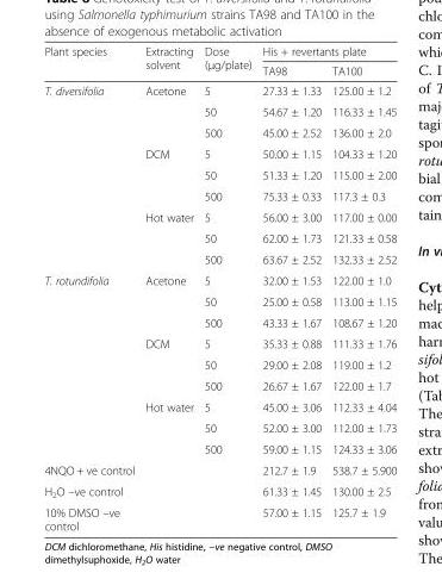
<table><thead><tr><td rowspan="2">Plant species</td><td rowspan="2">Extracting solvent</td><td rowspan="2">Dose (μg/plate)</td><td colspan="2">His + revertants plate</td></tr><tr><td>TA98</td><td>TA100</td></tr></thead><tbody><tr><td rowspan="9">T. diversifolia</td><td rowspan="3">Acetone</td><td>5</td><td>27.33 ± 1.33</td><td>125.00 ± 1.2</td></tr><tr><td>50</td><td>54.67 ± 1.20</td><td>116.33 ± 1.45</td></tr><tr><td>500</td><td>45.00 ± 2.52</td><td>136.00 ± 2.0</td></tr><tr><td rowspan="3">DCM</td><td>5</td><td>50.00 ± 1.15</td><td>104.33 ± 1.20</td></tr><tr><td>50</td><td>51.33 ± 1.20</td><td>115.00 ± 2.00</td></tr><tr><td>500</td><td>75.33 ± 0.33</td><td>117.3 ± 0.3</td></tr><tr><td rowspan="3">Hot water</td><td>5</td><td>56.00 ± 3.00</td><td>117.00 ± 0.00</td></tr><tr><td>50</td><td>62.00 ± 1.73</td><td>121.33 ± 0.58</td></tr><tr><td>500</td><td>63.67 ± 2.52</td><td>132.33 ± 2.52</td></tr><tr><td rowspan="9">T. rotundifolia</td><td rowspan="3">Acetone</td><td>5</td><td>32.00 ± 1.53</td><td>122.00 ± 1.0</td></tr><tr><td>50</td><td>25.00 ± 0.58</td><td>113.00 ± 1.15</td></tr><tr><td>500</td><td>43.33 ± 1.67</td><td>108.67 ± 1.20</td></tr><tr><td rowspan="3">DCM</td><td>5</td><td>35.33 ± 0.88</td><td>111.33 ± 1.76</td></tr><tr><td>50</td><td>29.00 ± 2.08</td><td>119.00 ± 1.2</td></tr><tr><td>500</td><td>26.67 ± 1.67</td><td>122.00 ± 1.7</td></tr><tr><td rowspan="3">Hot water</td><td>5</td><td>45.00 ± 3.06</td><td>112.33 ± 4.04</td></tr><tr><td>50</td><td>52.00 ± 3.00</td><td>112.00 ± 1.73</td></tr><tr><td>500</td><td>59.00 ± 1.15</td><td>124.33 ± 3.06</td></tr><tr><td>4NQO + ve control</td><td></td><td></td><td>212.7 ± 1.9</td><td>538.7 ± 5.900</td></tr><tr><td>H<sub>2</sub>O –ve control</td><td></td><td></td><td>61.33 ± 1.45</td><td>130.00 ± 2.5</td></tr><tr><td>10% DMSO –ve control</td><td></td><td></td><td>57.00 ± 1.15</td><td>125.7 ± 1.9</td></tr></tbody></table>